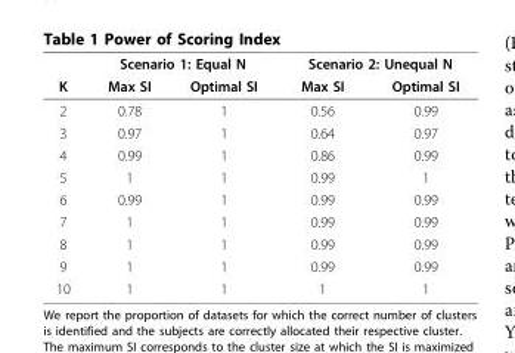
<table><thead><tr><td rowspan="2">K</td><td colspan="2">Scenario 1: Equal N</td><td colspan="2">Scenario 2: Unequal N</td></tr><tr><td>Max SI</td><td>Optimal SI</td><td>Max SI</td><td>Optimal SI</td></tr></thead><tbody><tr><td>2</td><td>0.78</td><td>1</td><td>0.56</td><td>0.99</td></tr><tr><td>3</td><td>0.97</td><td>1</td><td>0.64</td><td>0.97</td></tr><tr><td>4</td><td>0.99</td><td>1</td><td>0.86</td><td>0.99</td></tr><tr><td>5</td><td>1</td><td>1</td><td>0.99</td><td>1</td></tr><tr><td>6</td><td>0.99</td><td>1</td><td>0.99</td><td>0.99</td></tr><tr><td>7</td><td>1</td><td>1</td><td>0.99</td><td>0.99</td></tr><tr><td>8</td><td>1</td><td>1</td><td>0.99</td><td>0.99</td></tr><tr><td>9</td><td>1</td><td>1</td><td>0.99</td><td>0.99</td></tr><tr><td>10</td><td>1</td><td>1</td><td>1</td><td>1</td></tr></tbody></table>